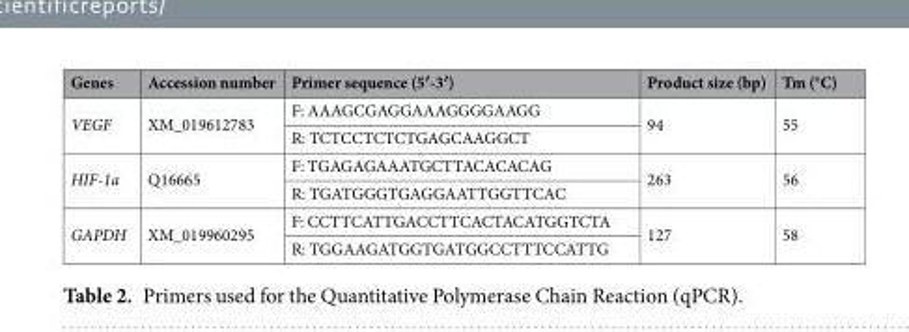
<table><thead><tr><td>Genes</td><td>Accession number</td><td>Primer sequence (5′-3′)</td><td>Product size (bp)</td><td>Tm (°C)</td></tr></thead><tbody><tr><td rowspan="2">VEGF</td><td rowspan="2">XM_019612783</td><td>F: AAAGCGAGGAAAGGGGAAGG</td><td rowspan="2">94</td><td rowspan="2">55</td></tr><tr><td>R: TCTCCTCTCTGAGCAAGGCT</td></tr><tr><td rowspan="2">HIF-1a</td><td rowspan="2">Q16665</td><td>F: TGAGAGAAATGCTTACACACAG</td><td rowspan="2">263</td><td rowspan="2">56</td></tr><tr><td>R: TGATGGGTGAGGAATTGGTTCAC</td></tr><tr><td rowspan="2">GAPDH</td><td rowspan="2">XM_019960295</td><td>F: CCTTCATTGACCTTCACTACATGGTCTA</td><td rowspan="2">127</td><td rowspan="2">58</td></tr><tr><td>R: TGGAAGATGGTGATGGCCTTTCCATTG</td></tr></tbody></table>